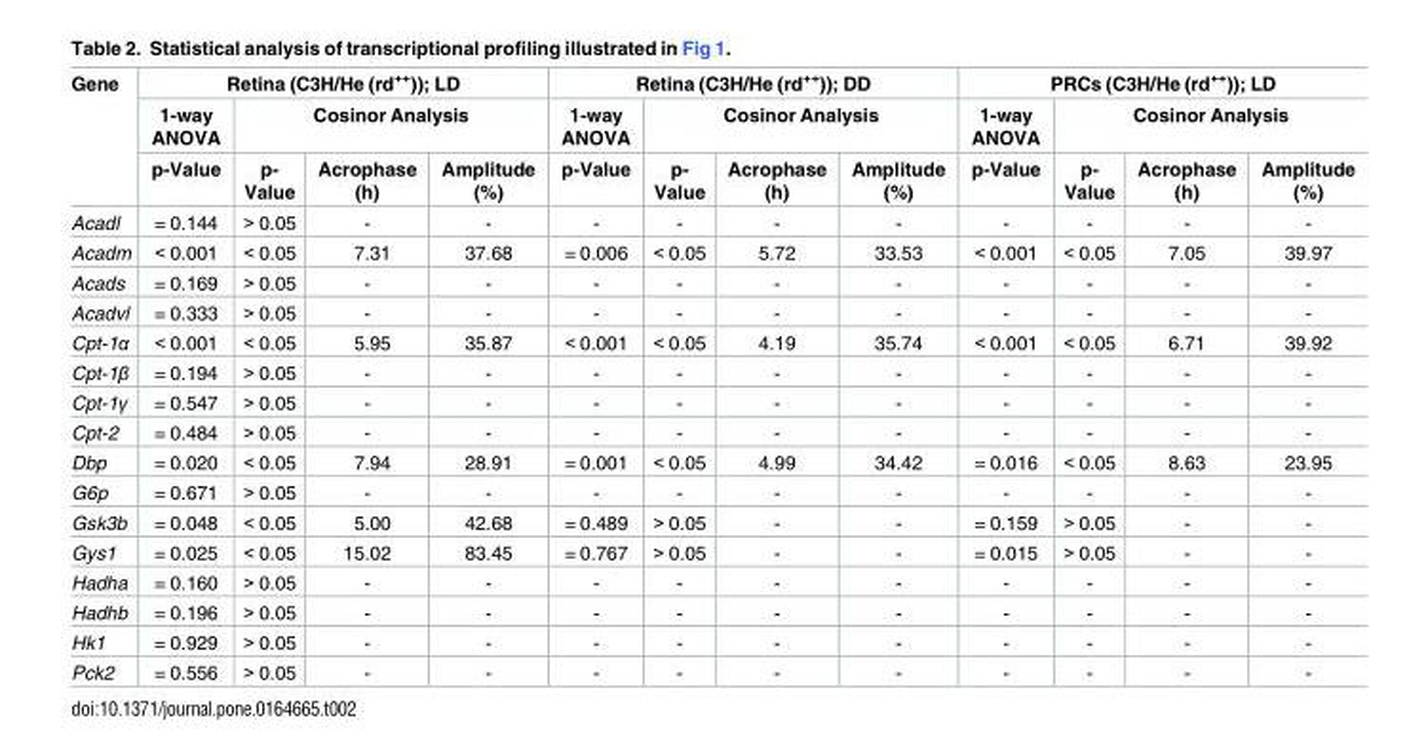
<table><thead><tr><td rowspan="3">Gene</td><td colspan="4">Retina (C3H/He (rd<sup>++</sup>)); LD</td><td colspan="4">Retina (C3H/He (rd<sup>++</sup>)); DD</td><td colspan="4">PRCs (C3H/He (rd<sup>++</sup>)); LD</td></tr><tr><td rowspan="2">1-way ANOVA p-Value</td><td colspan="3">Cosinor Analysis</td><td rowspan="2">1-way ANOVA p-Value</td><td colspan="3">Cosinor Analysis</td><td rowspan="2">1-way ANOVA p-Value</td><td colspan="3">Cosinor Analysis</td></tr><tr><td>p- Value</td><td>Acrophase (h)</td><td>Amplitude (%)</td><td>p- Value</td><td>Acrophase (h)</td><td>Amplitude (%)</td><td>p- Value</td><td>Acrophase (h)</td><td>Amplitude (%)</td></tr></thead><tbody><tr><td>Acadl</td><td>= 0.144</td><td>&gt; 0.05</td><td>-</td><td>-</td><td>-</td><td>-</td><td>-</td><td>-</td><td>-</td><td>-</td><td>-</td><td>-</td></tr><tr><td>Acadm</td><td>&lt; 0.001</td><td>&lt; 0.05</td><td>7.31</td><td>37.68</td><td>= 0.006</td><td>&lt; 0.05</td><td>5.72</td><td>33.53</td><td>&lt; 0.001</td><td>&lt; 0.05</td><td>7.05</td><td>39.97</td></tr><tr><td>Acads</td><td>= 0.169</td><td>&gt; 0.05</td><td>-</td><td>-</td><td>-</td><td>-</td><td>-</td><td>-</td><td>-</td><td>-</td><td>-</td><td>-</td></tr><tr><td>Acadvl</td><td>= 0.333</td><td>&gt; 0.05</td><td>-</td><td>-</td><td>-</td><td>-</td><td>-</td><td>-</td><td>-</td><td>-</td><td>-</td><td>-</td></tr><tr><td>Cpt-1α</td><td>&lt; 0.001</td><td>&lt; 0.05</td><td>5.95</td><td>35.87</td><td>&lt; 0.001</td><td>&lt; 0.05</td><td>4.19</td><td>35.74</td><td>&lt; 0.001</td><td>&lt; 0.05</td><td>6.71</td><td>39.92</td></tr><tr><td>Cpt-1β</td><td>= 0.194</td><td>&gt; 0.05</td><td>-</td><td>-</td><td>-</td><td>-</td><td>-</td><td>-</td><td>-</td><td>-</td><td>-</td><td>-</td></tr><tr><td>Cpt-1γ</td><td>= 0.547</td><td>&gt; 0.05</td><td>-</td><td>-</td><td>-</td><td>-</td><td>-</td><td>-</td><td>-</td><td>-</td><td>-</td><td>-</td></tr><tr><td>Cpt-2</td><td>= 0.484</td><td>&gt; 0.05</td><td>-</td><td>-</td><td>-</td><td>-</td><td>-</td><td>-</td><td>-</td><td>-</td><td>-</td><td>-</td></tr><tr><td>Dbp</td><td>= 0.020</td><td>&lt; 0.05</td><td>7.94</td><td>28.91</td><td>= 0.001</td><td>&lt; 0.05</td><td>4.99</td><td>34.42</td><td>= 0.016</td><td>&lt; 0.05</td><td>8.63</td><td>23.95</td></tr><tr><td>G6p</td><td>= 0.671</td><td>&gt; 0.05</td><td>-</td><td>-</td><td>-</td><td>-</td><td>-</td><td>-</td><td>-</td><td>-</td><td>-</td><td>-</td></tr><tr><td>Gsk3b</td><td>= 0.048</td><td>&lt; 0.05</td><td>5.00</td><td>42.68</td><td>= 0.489</td><td>&gt; 0.05</td><td>-</td><td>-</td><td>= 0.159</td><td>&gt; 0.05</td><td>-</td><td>-</td></tr><tr><td>Gys1</td><td>= 0.025</td><td>&lt; 0.05</td><td>15.02</td><td>83.45</td><td>= 0.767</td><td>&gt; 0.05</td><td>-</td><td>-</td><td>= 0.015</td><td>&gt; 0.05</td><td>-</td><td>-</td></tr><tr><td>Hadha</td><td>= 0.160</td><td>&gt; 0.05</td><td>-</td><td>-</td><td>-</td><td>-</td><td>-</td><td>-</td><td>-</td><td>-</td><td>-</td><td>-</td></tr><tr><td>Hadhb</td><td>= 0.196</td><td>&gt; 0.05</td><td>-</td><td>-</td><td>-</td><td>-</td><td>-</td><td>-</td><td>-</td><td>-</td><td>-</td><td>-</td></tr><tr><td>Hk1</td><td>= 0.929</td><td>&gt; 0.05</td><td>-</td><td>-</td><td>-</td><td>-</td><td>-</td><td>-</td><td>-</td><td>-</td><td>-</td><td>-</td></tr><tr><td>Pck2</td><td>= 0.556</td><td>&gt; 0.05</td><td>-</td><td>-</td><td>-</td><td>-</td><td>-</td><td>-</td><td>-</td><td>-</td><td>-</td><td>-</td></tr></tbody></table>